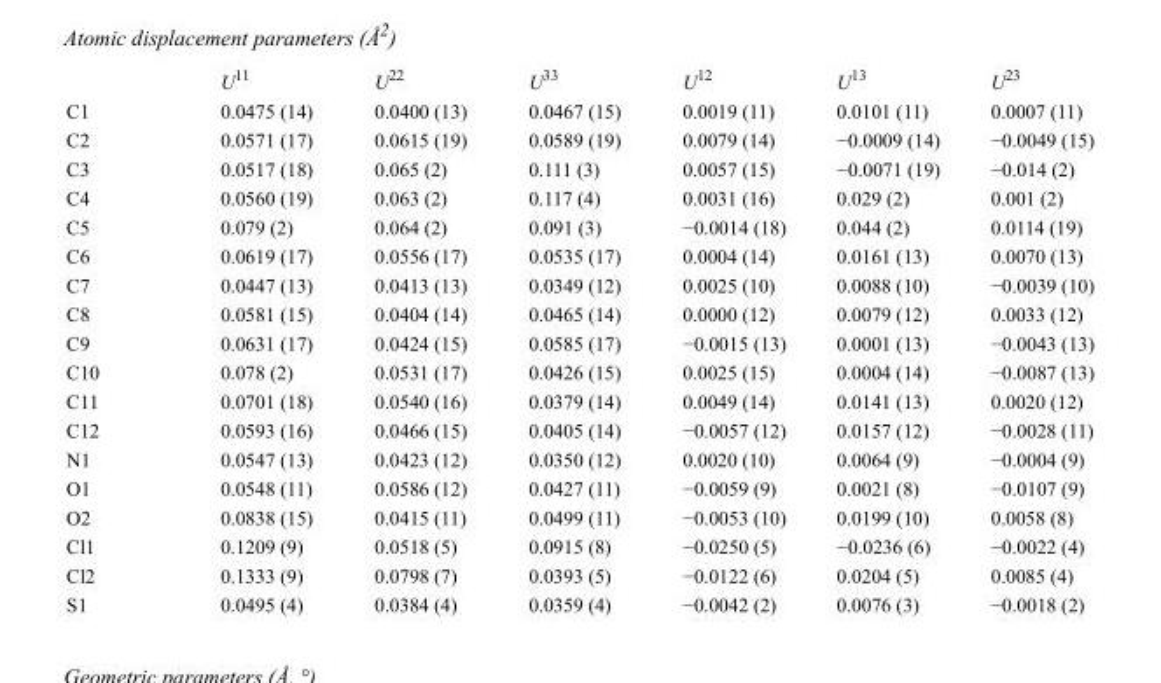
<table><thead><tr><td></td><td>U<sup>11</sup></td><td>U<sup>22</sup></td><td>U<sup>33</sup></td><td>U<sup>12</sup></td><td>U<sup>13</sup></td><td>U<sup>23</sup></td></tr></thead><tbody><tr><td>C1</td><td>0.0475 (14)</td><td>0.0400 (13)</td><td>0.0467 (15)</td><td>0.0019 (11)</td><td>0.0101 (11)</td><td>0.0007 (11)</td></tr><tr><td>C2</td><td>0.0571 (17)</td><td>0.0615 (19)</td><td>0.0589 (19)</td><td>0.0079 (14)</td><td>−0.0009 (14)</td><td>−0.0049 (15)</td></tr><tr><td>C3</td><td>0.0517 (18)</td><td>0.065 (2)</td><td>0.111 (3)</td><td>0.0057 (15)</td><td>−0.0071 (19)</td><td>−0.014 (2)</td></tr><tr><td>C4</td><td>0.0560 (19)</td><td>0.063 (2)</td><td>0.117 (4)</td><td>0.0031 (16)</td><td>0.029 (2)</td><td>0.001 (2)</td></tr><tr><td>C5</td><td>0.079 (2)</td><td>0.064 (2)</td><td>0.091 (3)</td><td>−0.0014 (18)</td><td>0.044 (2)</td><td>0.0114 (19)</td></tr><tr><td>C6</td><td>0.0619 (17)</td><td>0.0556 (17)</td><td>0.0535 (17)</td><td>0.0004 (14)</td><td>0.0161 (13)</td><td>0.0070 (13)</td></tr><tr><td>C7</td><td>0.0447 (13)</td><td>0.0413 (13)</td><td>0.0349 (12)</td><td>0.0025 (10)</td><td>0.0088 (10)</td><td>−0.0039 (10)</td></tr><tr><td>C8</td><td>0.0581 (15)</td><td>0.0404 (14)</td><td>0.0465 (14)</td><td>0.0000 (12)</td><td>0.0079 (12)</td><td>0.0033 (12)</td></tr><tr><td>C9</td><td>0.0631 (17)</td><td>0.0424 (15)</td><td>0.0585 (17)</td><td>−0.0015 (13)</td><td>0.0001 (13)</td><td>−0.0043 (13)</td></tr><tr><td>C10</td><td>0.078 (2)</td><td>0.0531 (17)</td><td>0.0426 (15)</td><td>0.0025 (15)</td><td>0.0004 (14)</td><td>−0.0087 (13)</td></tr><tr><td>C11</td><td>0.0701 (18)</td><td>0.0540 (16)</td><td>0.0379 (14)</td><td>0.0049 (14)</td><td>0.0141 (13)</td><td>0.0020 (12)</td></tr><tr><td>C12</td><td>0.0593 (16)</td><td>0.0466 (15)</td><td>0.0405 (14)</td><td>−0.0057 (12)</td><td>0.0157 (12)</td><td>−0.0028 (11)</td></tr><tr><td>N1</td><td>0.0547 (13)</td><td>0.0423 (12)</td><td>0.0350 (12)</td><td>0.0020 (10)</td><td>0.0064 (9)</td><td>−0.0004 (9)</td></tr><tr><td>O1</td><td>0.0548 (11)</td><td>0.0586 (12)</td><td>0.0427 (11)</td><td>−0.0059 (9)</td><td>0.0021 (8)</td><td>−0.0107 (9)</td></tr><tr><td>O2</td><td>0.0838 (15)</td><td>0.0415 (11)</td><td>0.0499 (11)</td><td>−0.0053 (10)</td><td>0.0199 (10)</td><td>0.0058 (8)</td></tr><tr><td>Cl1</td><td>0.1209 (9)</td><td>0.0518 (5)</td><td>0.0915 (8)</td><td>−0.0250 (5)</td><td>−0.0236 (6)</td><td>−0.0022 (4)</td></tr><tr><td>Cl2</td><td>0.1333 (9)</td><td>0.0798 (7)</td><td>0.0393 (5)</td><td>−0.0122 (6)</td><td>0.0204 (5)</td><td>0.0085 (4)</td></tr><tr><td>S1</td><td>0.0495 (4)</td><td>0.0384 (4)</td><td>0.0359 (4)</td><td>−0.0042 (2)</td><td>0.0076 (3)</td><td>−0.0018 (2)</td></tr></tbody></table>